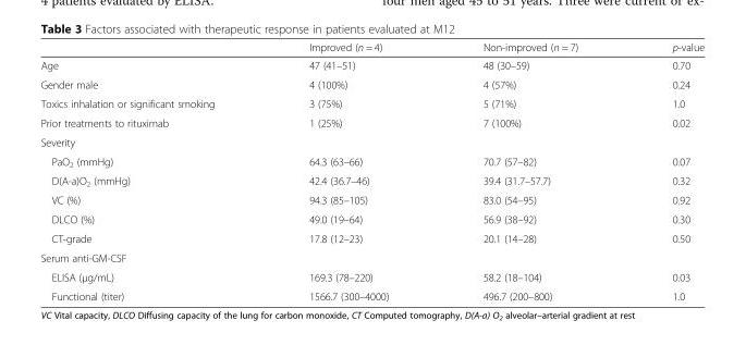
<table><thead><tr><td></td><td>Improved (n = 4)</td><td>Non-improved (n = 7)</td><td>p-value</td></tr></thead><tbody><tr><td>Age</td><td>47 (41–51)</td><td>48 (30–59)</td><td>0.70</td></tr><tr><td>Gender male</td><td>4 (100%)</td><td>4 (57%)</td><td>0.24</td></tr><tr><td>Toxics inhalation or significant smoking</td><td>3 (75%)</td><td>5 (71%)</td><td>1.0</td></tr><tr><td>Prior treatments to rituximab</td><td>1 (25%)</td><td>7 (100%)</td><td>0.02</td></tr><tr><td colspan="4">Severity</td></tr><tr><td>PaO<sub>2</sub> (mmHg)</td><td>64.3 (63–66)</td><td>70.7 (57–82)</td><td>0.07</td></tr><tr><td>D(A-a)O<sub>2</sub> (mmHg)</td><td>42.4 (36.7–46)</td><td>39.4 (31.7–57.7)</td><td>0.32</td></tr><tr><td>VC (%)</td><td>94.3 (85–105)</td><td>83.0 (54–95)</td><td>0.92</td></tr><tr><td>DLCO (%)</td><td>49.0 (19–64)</td><td>56.9 (38–92)</td><td>0.30</td></tr><tr><td>CT-grade</td><td>17.8 (12–23)</td><td>20.1 (14–28)</td><td>0.50</td></tr><tr><td colspan="4">Serum anti-GM-CSF</td></tr><tr><td>ELISA (μg/mL)</td><td>169.3 (78–220)</td><td>58.2 (18–104)</td><td>0.03</td></tr><tr><td>Functional (titer)</td><td>1566.7 (300–4000)</td><td>496.7 (200–800)</td><td>1.0</td></tr></tbody></table>